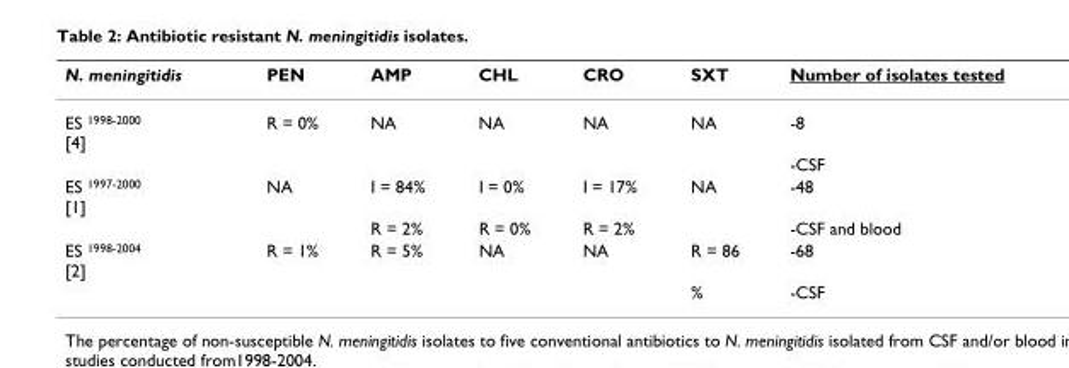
<table><thead><tr><td>N. meningitidis</td><td>PEN</td><td>AMP</td><td>CHL</td><td>CRO</td><td>SXT</td><td>Number of isolates tested</td></tr></thead><tbody><tr><td rowspan="2">ES <sup>1998-2000</sup> [4]</td><td>R = 0%</td><td>NA</td><td>NA</td><td>NA</td><td>NA</td><td>-8</td></tr><tr><td></td><td></td><td></td><td></td><td></td><td>-CSF</td></tr><tr><td rowspan="2">ES <sup>1997-2000</sup> [1]</td><td>NA</td><td>I = 84%</td><td>I = 0%</td><td>I = 17%</td><td>NA</td><td>-48</td></tr><tr><td></td><td>R = 2%</td><td>R = 0%</td><td>R = 2%</td><td></td><td>-CSF and blood</td></tr><tr><td rowspan="2">ES <sup>1998-2004</sup> [2]</td><td>R = 1%</td><td>R = 5%</td><td>NA</td><td>NA</td><td>R = 86</td><td>-68</td></tr><tr><td></td><td></td><td></td><td></td><td>%</td><td>-CSF</td></tr></tbody></table>